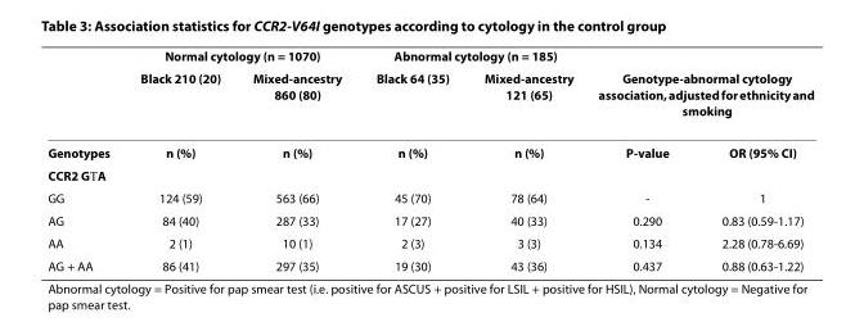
<table><thead><tr><td rowspan="2"></td><td colspan="2">Normal cytology (n = 1070)</td><td colspan="2">Abnormal cytology (n = 185)</td><td></td><td></td></tr><tr><td>Black 210 (20)</td><td>Mixed-ancestry 860 (80)</td><td>Black 64 (35)</td><td>Mixed-ancestry 121 (65)</td><td colspan="2">Genotype-abnormal cytology association, adjusted for ethnicity and smoking</td></tr></thead><tbody><tr><td>Genotypes</td><td>n (%)</td><td>n (%)</td><td>n (%)</td><td>n (%)</td><td>P-value</td><td>OR (95% CI)</td></tr><tr><td colspan="7">CCR2 G→A</td></tr><tr><td>GG</td><td>124 (59)</td><td>563 (66)</td><td>45 (70)</td><td>78 (64)</td><td>-</td><td>1</td></tr><tr><td>AG</td><td>84 (40)</td><td>287 (33)</td><td>17 (27)</td><td>40 (33)</td><td>0.290</td><td>0.83 (0.59-1.17)</td></tr><tr><td>AA</td><td>2 (1)</td><td>10 (1)</td><td>2 (3)</td><td>3 (3)</td><td>0.134</td><td>2.28 (0.78-6.69)</td></tr><tr><td>AG + AA</td><td>86 (41)</td><td>297 (35)</td><td>19 (30)</td><td>43 (36)</td><td>0.437</td><td>0.88 (0.63-1.22)</td></tr></tbody></table>